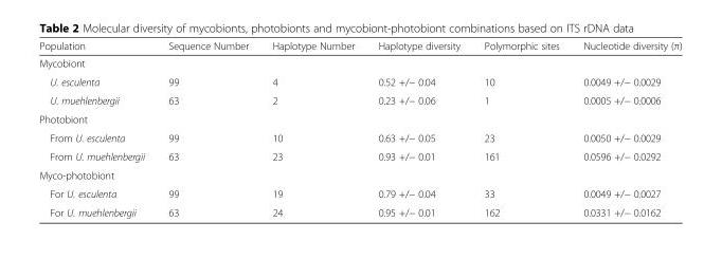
<table><thead><tr><td>Population</td><td>Sequence Number</td><td>Haplotype Number</td><td>Haplotype diversity</td><td>Polymorphic sites</td><td>Nucleotide diversity (π)</td></tr></thead><tbody><tr><td colspan="6">Mycobiont</td></tr><tr><td>U. esculenta</td><td>99</td><td>4</td><td>0.52 +/− 0.04</td><td>10</td><td>0.0049 +/− 0.0029</td></tr><tr><td>U. muehlenbergii</td><td>63</td><td>2</td><td>0.23 +/− 0.06</td><td>1</td><td>0.0005 +/− 0.0006</td></tr><tr><td colspan="6">Photobiont</td></tr><tr><td>From U. esculenta</td><td>99</td><td>10</td><td>0.63 +/− 0.05</td><td>23</td><td>0.0050 +/− 0.0029</td></tr><tr><td>From U. muehlenbergii</td><td>63</td><td>23</td><td>0.93 +/− 0.01</td><td>161</td><td>0.0596 +/− 0.0292</td></tr><tr><td colspan="6">Myco-photobiont</td></tr><tr><td>For U. esculenta</td><td>99</td><td>19</td><td>0.79 +/− 0.04</td><td>33</td><td>0.0049 +/− 0.0027</td></tr><tr><td>For U. muehlenbergii</td><td>63</td><td>24</td><td>0.95 +/− 0.01</td><td>162</td><td>0.0331 +/− 0.0162</td></tr></tbody></table>